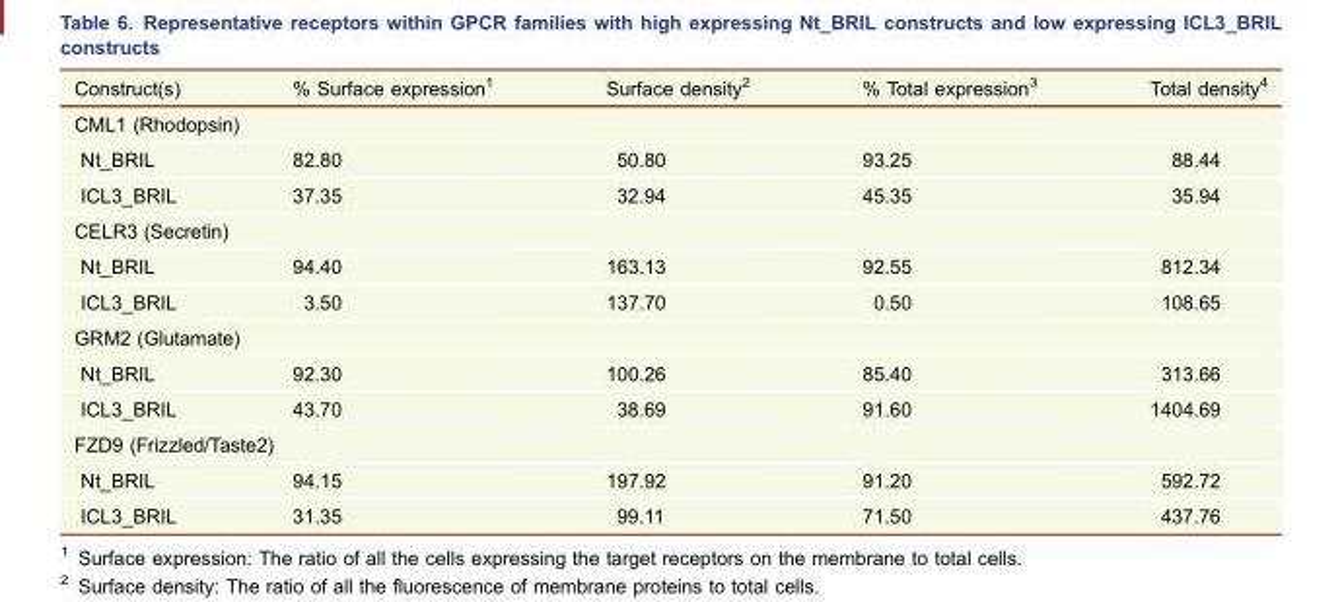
<table><thead><tr><td>Construct(s)</td><td>% Surface expression<sup>1</sup></td><td>Surface density<sup>2</sup></td><td>% Total expression<sup>3</sup></td><td>Total density<sup>4</sup></td></tr></thead><tbody><tr><td colspan="5">CML1 (Rhodopsin)</td></tr><tr><td>Nt_BRIL</td><td>82.80</td><td>50.80</td><td>93.25</td><td>88.44</td></tr><tr><td>ICL3_BRIL</td><td>37.35</td><td>32.94</td><td>45.35</td><td>35.94</td></tr><tr><td colspan="5">CELR3 (Secretin)</td></tr><tr><td>Nt_BRIL</td><td>94.40</td><td>163.13</td><td>92.55</td><td>812.34</td></tr><tr><td>ICL3_BRIL</td><td>3.50</td><td>137.70</td><td>0.50</td><td>108.65</td></tr><tr><td colspan="5">GRM2 (Glutamate)</td></tr><tr><td>Nt_BRIL</td><td>92.30</td><td>100.26</td><td>85.40</td><td>313.66</td></tr><tr><td>ICL3_BRIL</td><td>43.70</td><td>38.69</td><td>91.60</td><td>1404.69</td></tr><tr><td colspan="5">FZD9 (Frizzled/Taste2)</td></tr><tr><td>Nt_BRIL</td><td>94.15</td><td>197.92</td><td>91.20</td><td>592.72</td></tr><tr><td>ICL3_BRIL</td><td>31.35</td><td>99.11</td><td>71.50</td><td>437.76</td></tr></tbody></table>